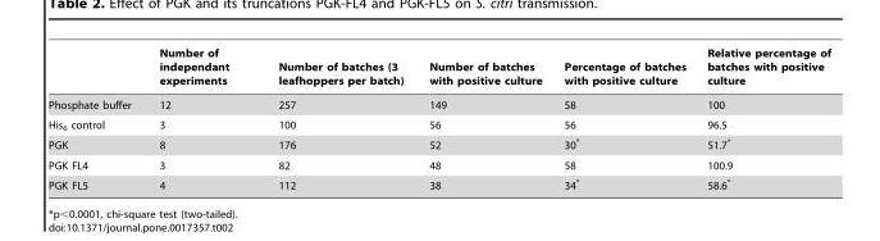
<table><thead><tr><td></td><td>Number of independant experiments</td><td>Number of batches (3 leafhoppers per batch)</td><td>Number of batches with positive culture</td><td>Percentage of batches with positive culture</td><td>Relative percentage of batches with positive culture</td></tr></thead><tbody><tr><td>Phosphate buffer</td><td>12</td><td>257</td><td>149</td><td>58</td><td>100</td></tr><tr><td>His<sub>6</sub> control</td><td>3</td><td>100</td><td>56</td><td>56</td><td>96.5</td></tr><tr><td>PGK</td><td>8</td><td>176</td><td>52</td><td>30*</td><td>51.7*</td></tr><tr><td>PGK FL4</td><td>3</td><td>82</td><td>48</td><td>58</td><td>100.9</td></tr><tr><td>PGK FL5</td><td>4</td><td>112</td><td>38</td><td>34*</td><td>58.6*</td></tr></tbody></table>